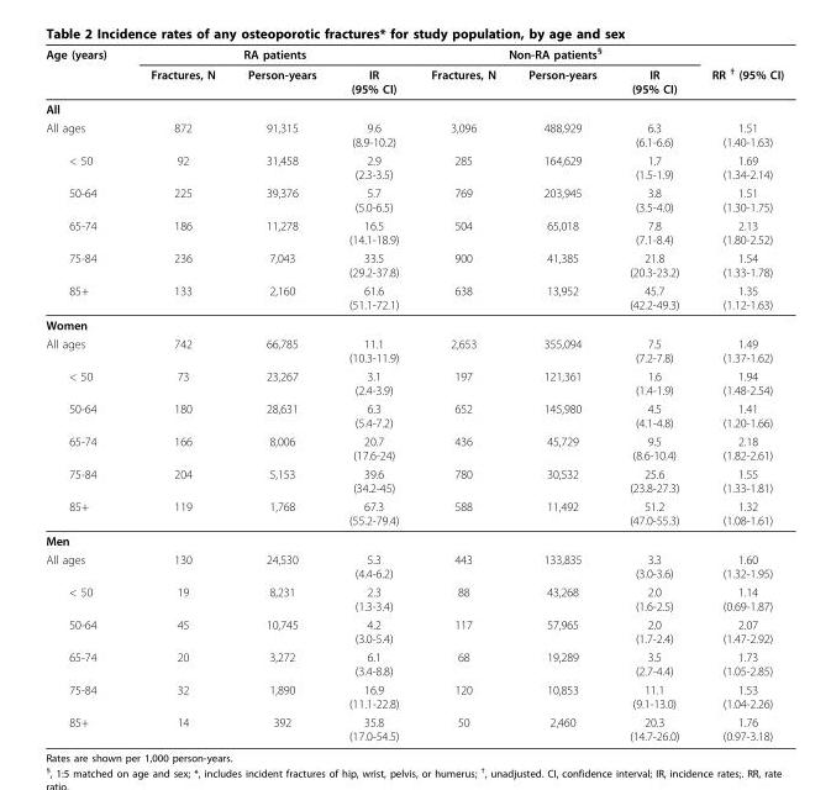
<table><thead><tr><td rowspan="2">Age (years)</td><td colspan="3">RA patients</td><td colspan="3">Non-RA patients<sup>§</sup></td><td rowspan="2">RR <sup>†</sup> (95% CI)</td></tr><tr><td>Fractures, N</td><td>Person-years</td><td>IR (95% CI)</td><td>Fractures, N</td><td>Person-years</td><td>IR (95% CI)</td></tr></thead><tbody><tr><td colspan="8">All</td></tr><tr><td>All ages</td><td>872</td><td>91,315</td><td>9.6 (8.9-10.2)</td><td>3,096</td><td>488,929</td><td>6.3 (6.1-6.6)</td><td>1.51 (1.40-1.63)</td></tr><tr><td>&lt; 50</td><td>92</td><td>31,458</td><td>2.9 (2.3-3.5)</td><td>285</td><td>164,629</td><td>1.7 (1.5-1.9)</td><td>1.69 (1.34-2.14)</td></tr><tr><td>50-64</td><td>225</td><td>39,376</td><td>5.7 (5.0-6.5)</td><td>769</td><td>203,945</td><td>3.8 (3.5-4.0)</td><td>1.51 (1.30-1.75)</td></tr><tr><td>65-74</td><td>186</td><td>11,278</td><td>16.5 (14.1-18.9)</td><td>504</td><td>65,018</td><td>7.8 (7.1-8.4)</td><td>2.13 (1.80-2.52)</td></tr><tr><td>75-84</td><td>236</td><td>7,043</td><td>33.5 (29.2-37.8)</td><td>900</td><td>41,385</td><td>21.8 (20.3-23.2)</td><td>1.54 (1.33-1.78)</td></tr><tr><td>85+</td><td>133</td><td>2,160</td><td>61.6 (51.1-72.1)</td><td>638</td><td>13,952</td><td>45.7 (42.2-49.3)</td><td>1.35 (1.12-1.63)</td></tr><tr><td colspan="8">Women</td></tr><tr><td>All ages</td><td>742</td><td>66,785</td><td>11.1 (10.3-11.9)</td><td>2,653</td><td>355,094</td><td>7.5 (7.2-7.8)</td><td>1.49 (1.37-1.62)</td></tr><tr><td>&lt; 50</td><td>73</td><td>23,267</td><td>3.1 (2.4-3.9)</td><td>197</td><td>121,361</td><td>1.6 (1.4-1.9)</td><td>1.94 (1.48-2.54)</td></tr><tr><td>50-64</td><td>180</td><td>28,631</td><td>6.3 (5.4-7.2)</td><td>652</td><td>145,980</td><td>4.5 (4.1-4.8)</td><td>1.41 (1.20-1.66)</td></tr><tr><td>65-74</td><td>166</td><td>8,006</td><td>20.7 (17.6-24)</td><td>436</td><td>45,729</td><td>9.5 (8.6-10.4)</td><td>2.18 (1.82-2.61)</td></tr><tr><td>75-84</td><td>204</td><td>5,153</td><td>39.6 (34.2-45)</td><td>780</td><td>30,532</td><td>25.6 (23.8-27.3)</td><td>1.55 (1.33-1.81)</td></tr><tr><td>85+</td><td>119</td><td>1,768</td><td>67.3 (55.2-79.4)</td><td>588</td><td>11,492</td><td>51.2 (47.0-55.3)</td><td>1.32 (1.08-1.61)</td></tr><tr><td colspan="8">Men</td></tr><tr><td>All ages</td><td>130</td><td>24,530</td><td>5.3 (4.4-6.2)</td><td>443</td><td>133,835</td><td>3.3 (3.0-3.6)</td><td>1.60 (1.32-1.95)</td></tr><tr><td>&lt; 50</td><td>19</td><td>8,231</td><td>2.3 (1.3-3.4)</td><td>88</td><td>43,268</td><td>2.0 (1.6-2.5)</td><td>1.14 (0.69-1.87)</td></tr><tr><td>50-64</td><td>45</td><td>10,745</td><td>4.2 (3.0-5.4)</td><td>117</td><td>57,965</td><td>2.0 (1.7-2.4)</td><td>2.07 (1.47-2.92)</td></tr><tr><td>65-74</td><td>20</td><td>3,272</td><td>6.1 (3.4-8.8)</td><td>68</td><td>19,289</td><td>3.5 (2.7-4.4)</td><td>1.73 (1.05-2.85)</td></tr><tr><td>75-84</td><td>32</td><td>1,890</td><td>16.9 (11.1-22.8)</td><td>120</td><td>10,853</td><td>11.1 (9.1-13.0)</td><td>1.53 (1.04-2.26)</td></tr><tr><td>85+</td><td>14</td><td>392</td><td>35.8 (17.0-54.5)</td><td>50</td><td>2,460</td><td>20.3 (14.7-26.0)</td><td>1.76 (0.97-3.18)</td></tr></tbody></table>